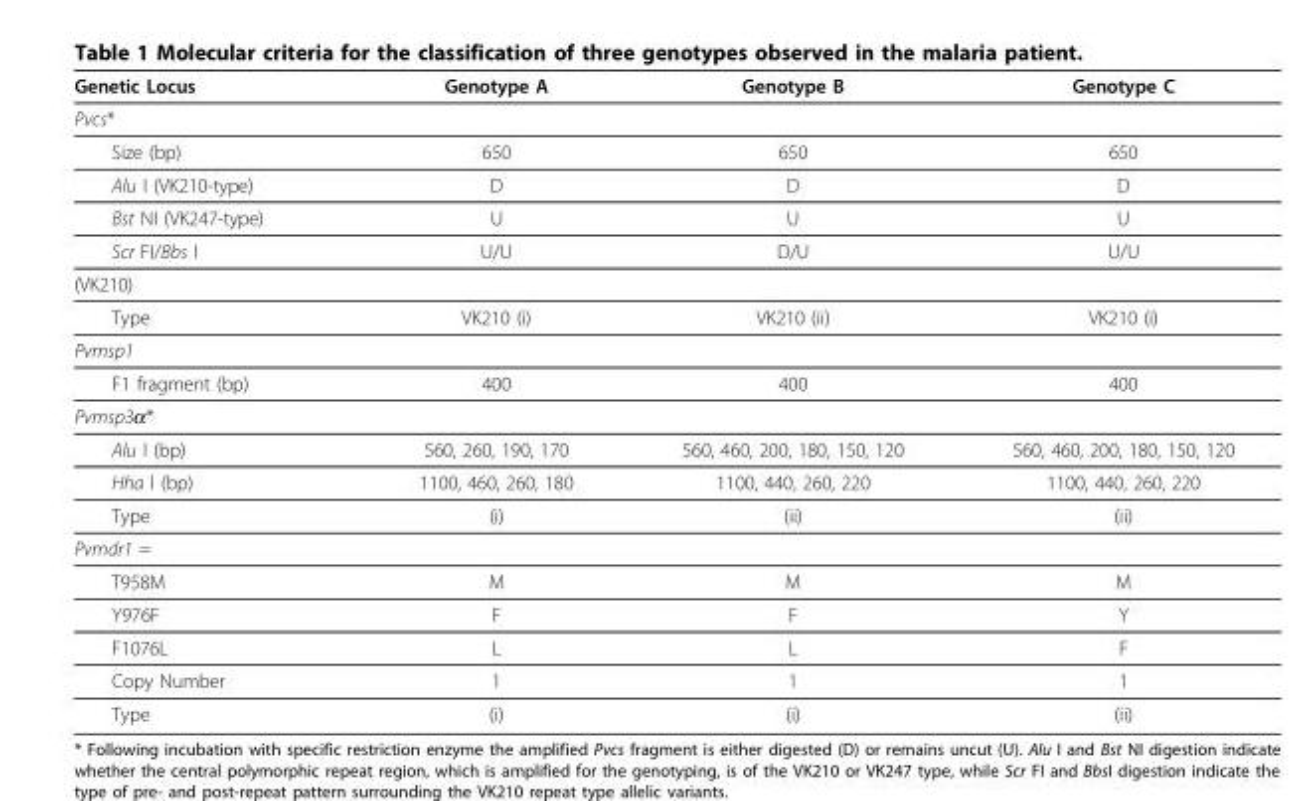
<table><thead><tr><td>Genetic Locus</td><td>Genotype A</td><td>Genotype B</td><td>Genotype C</td></tr></thead><tbody><tr><td colspan="4">Pvcs*</td></tr><tr><td>Size (bp)</td><td>650</td><td>650</td><td>650</td></tr><tr><td>Alu I (VK210-type)</td><td>D</td><td>D</td><td>D</td></tr><tr><td>Bst NI (VK247-type)</td><td>U</td><td>U</td><td>U</td></tr><tr><td>Scr FI/Bbs I</td><td>U/U</td><td>D/U</td><td>U/U</td></tr><tr><td colspan="4">(VK210)</td></tr><tr><td>Type</td><td>VK210 (i)</td><td>VK210 (ii)</td><td>VK210 (i)</td></tr><tr><td colspan="4">Pvmsp1</td></tr><tr><td>F1 fragment (bp)</td><td>400</td><td>400</td><td>400</td></tr><tr><td colspan="4">Pvmsp3α*</td></tr><tr><td>Alu I (bp)</td><td>560, 260, 190, 170</td><td>560, 460, 200, 180, 150, 120</td><td>560, 460, 200, 180, 150, 120</td></tr><tr><td>Hha l (bp)</td><td>1100, 460, 260, 180</td><td>1100, 440, 260, 220</td><td>1100, 440, 260, 220</td></tr><tr><td>Type</td><td>(i)</td><td>(ii)</td><td>(ii)</td></tr><tr><td colspan="4">Pvmdr1 =</td></tr><tr><td>T958M</td><td>M</td><td>M</td><td>M</td></tr><tr><td>Y976F</td><td>F</td><td>F</td><td>Y</td></tr><tr><td>F1076L</td><td>L</td><td>L</td><td>F</td></tr><tr><td>Copy Number</td><td>1</td><td>1</td><td>1</td></tr><tr><td>Type</td><td>(i)</td><td>(i)</td><td>(ii)</td></tr></tbody></table>